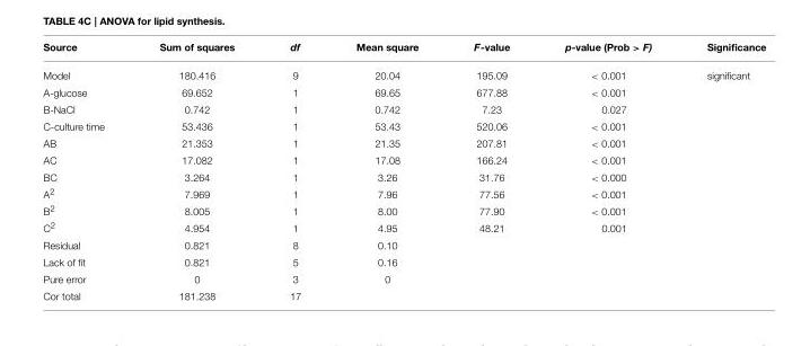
<table><thead><tr><td>Source</td><td>Sum of squares</td><td>df</td><td>Mean square</td><td>F-value</td><td>p-value (Prob &gt; F)</td><td>Significance</td></tr></thead><tbody><tr><td>Model</td><td>180.416</td><td>9</td><td>20.04</td><td>195.09</td><td>&lt; 0.001</td><td>significant</td></tr><tr><td>A-glucose</td><td>69.652</td><td>1</td><td>69.65</td><td>677.88</td><td>&lt; 0.001</td><td></td></tr><tr><td>B-NaCl</td><td>0.742</td><td>1</td><td>0.742</td><td>7.23</td><td>0.027</td><td></td></tr><tr><td>C-culture time</td><td>53.436</td><td>1</td><td>53.43</td><td>520.06</td><td>&lt; 0.001</td><td></td></tr><tr><td>AB</td><td>21.353</td><td>1</td><td>21.35</td><td>207.81</td><td>&lt; 0.001</td><td></td></tr><tr><td>AC</td><td>17.082</td><td>1</td><td>17.08</td><td>166.24</td><td>&lt; 0.001</td><td></td></tr><tr><td>BC</td><td>3.264</td><td>1</td><td>3.26</td><td>31.76</td><td>&lt; 0.000</td><td></td></tr><tr><td>A<sup>2</sup></td><td>7.969</td><td>1</td><td>7.96</td><td>77.56</td><td>&lt; 0.001</td><td></td></tr><tr><td>B<sup>2</sup></td><td>8.005</td><td>1</td><td>8.00</td><td>77.90</td><td>&lt; 0.001</td><td></td></tr><tr><td>C<sup>2</sup></td><td>4.954</td><td>1</td><td>4.95</td><td>48.21</td><td>0.001</td><td></td></tr><tr><td>Residual</td><td>0.821</td><td>8</td><td>0.10</td><td></td><td></td><td></td></tr><tr><td>Lack of fit</td><td>0.821</td><td>5</td><td>0.16</td><td></td><td></td><td></td></tr><tr><td>Pure error</td><td>0</td><td>3</td><td>0</td><td></td><td></td><td></td></tr><tr><td>Cor total</td><td>181.238</td><td>17</td><td></td><td></td><td></td><td></td></tr></tbody></table>